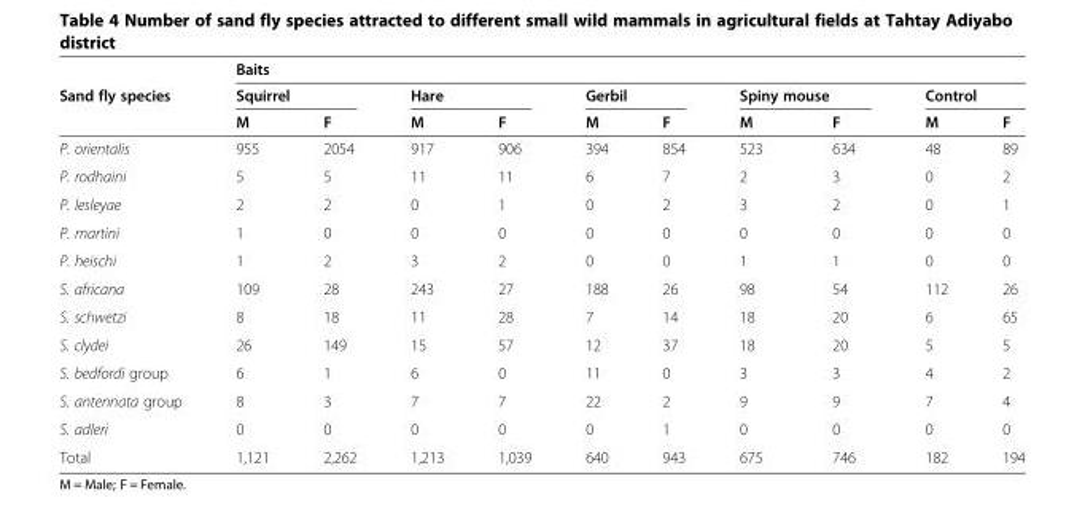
<table><thead><tr><td rowspan="3">Sand fly species</td><td colspan="10">Baits</td></tr><tr><td colspan="2">Squirrel</td><td colspan="2">Hare</td><td colspan="2">Gerbil</td><td colspan="2">Spiny mouse</td><td colspan="2">Control</td></tr><tr><td>M</td><td>F</td><td>M</td><td>F</td><td>M</td><td>F</td><td>M</td><td>F</td><td>M</td><td>F</td></tr></thead><tbody><tr><td>P. orientalis</td><td>955</td><td>2054</td><td>917</td><td>906</td><td>394</td><td>854</td><td>523</td><td>634</td><td>48</td><td>89</td></tr><tr><td>P. rodhaini</td><td>5</td><td>5</td><td>11</td><td>11</td><td>6</td><td>7</td><td>2</td><td>3</td><td>0</td><td>2</td></tr><tr><td>P. lesleyae</td><td>2</td><td>2</td><td>0</td><td>1</td><td>0</td><td>2</td><td>3</td><td>2</td><td>0</td><td>1</td></tr><tr><td>P. martini</td><td>1</td><td>0</td><td>0</td><td>0</td><td>0</td><td>0</td><td>0</td><td>0</td><td>0</td><td>0</td></tr><tr><td>P. heischi</td><td>1</td><td>2</td><td>3</td><td>2</td><td>0</td><td>0</td><td>1</td><td>1</td><td>0</td><td>0</td></tr><tr><td>S. africana</td><td>109</td><td>28</td><td>243</td><td>27</td><td>188</td><td>26</td><td>98</td><td>54</td><td>112</td><td>26</td></tr><tr><td>S. schwetzi</td><td>8</td><td>18</td><td>11</td><td>28</td><td>7</td><td>14</td><td>18</td><td>20</td><td>6</td><td>65</td></tr><tr><td>S. clydei</td><td>26</td><td>149</td><td>15</td><td>57</td><td>12</td><td>37</td><td>18</td><td>20</td><td>5</td><td>5</td></tr><tr><td>S. bedfordi group</td><td>6</td><td>1</td><td>6</td><td>0</td><td>11</td><td>0</td><td>3</td><td>3</td><td>4</td><td>2</td></tr><tr><td>S. antennata group</td><td>8</td><td>3</td><td>7</td><td>7</td><td>22</td><td>2</td><td>9</td><td>9</td><td>7</td><td>4</td></tr><tr><td>S. adleri</td><td>0</td><td>0</td><td>0</td><td>0</td><td>0</td><td>1</td><td>0</td><td>0</td><td>0</td><td>0</td></tr><tr><td>Total</td><td>1,121</td><td>2,262</td><td>1,213</td><td>1,039</td><td>640</td><td>943</td><td>675</td><td>746</td><td>182</td><td>194</td></tr></tbody></table>